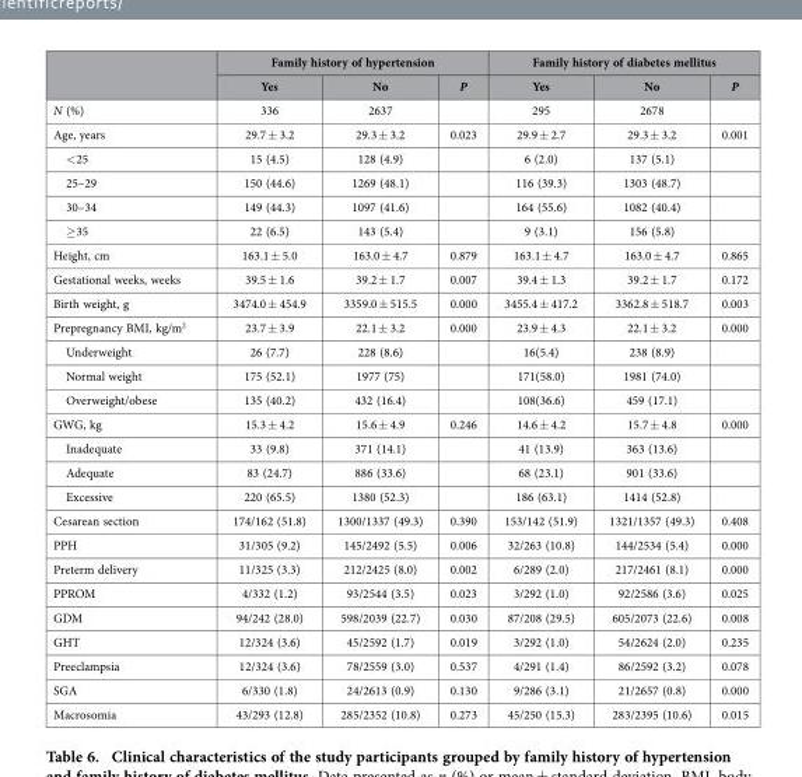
<table><thead><tr><td rowspan="2"></td><td colspan="3">Family history of hypertension</td><td colspan="3">Family history of diabetes mellitus</td></tr><tr><td>Yes</td><td>No</td><td>P</td><td>Yes</td><td>No</td><td>P</td></tr></thead><tbody><tr><td>N (%)</td><td>336</td><td>2637</td><td></td><td>295</td><td>2678</td><td></td></tr><tr><td>Age, years</td><td>29.7 ± 3.2</td><td>29.3 ± 3.2</td><td>0.023</td><td>29.9 ± 2.7</td><td>29.3 ± 3.2</td><td>0.001</td></tr><tr><td>&lt; 25</td><td>15 (4.5)</td><td>128 (4.9)</td><td></td><td>6 (2.0)</td><td>137 (5.1)</td><td></td></tr><tr><td>25–29</td><td>150 (44.6)</td><td>1269 (48.1)</td><td></td><td>116 (39.3)</td><td>1303 (48.7)</td><td></td></tr><tr><td>30–34</td><td>149 (44.3)</td><td>1097 (41.6)</td><td></td><td>164 (55.6)</td><td>1082 (40.4)</td><td></td></tr><tr><td>≥ 35</td><td>22 (6.5)</td><td>143 (5.4)</td><td></td><td>9 (3.1)</td><td>156 (5.8)</td><td></td></tr><tr><td>Height, cm</td><td>163.1 ± 5.0</td><td>163.0 ± 4.7</td><td>0.879</td><td>163.1 ± 4.7</td><td>163.0 ± 4.7</td><td>0.865</td></tr><tr><td>Gestational weeks, weeks</td><td>39.5 ± 1.6</td><td>39.2 ± 1.7</td><td>0.007</td><td>39.4 ± 1.3</td><td>39.2 ± 1.7</td><td>0.172</td></tr><tr><td>Birth weight, g</td><td>3474.0 ± 454.9</td><td>3359.0 ± 515.5</td><td>0.000</td><td>3455.4 ± 417.2</td><td>3362.8 ± 518.7</td><td>0.003</td></tr><tr><td>Prepregnancy BMI, kg/m<sup>2</sup></td><td>23.7 ± 3.9</td><td>22.1 ± 3.2</td><td>0.000</td><td>23.9 ± 4.3</td><td>22.1 ± 3.2</td><td>0.000</td></tr><tr><td>Underweight</td><td>26 (7.7)</td><td>228 (8.6)</td><td></td><td>16(5.4)</td><td>238 (8.9)</td><td></td></tr><tr><td>Normal weight</td><td>175 (52.1)</td><td>1977 (75)</td><td></td><td>171(58.0)</td><td>1981 (74.0)</td><td></td></tr><tr><td>Overweight/obese</td><td>135 (40.2)</td><td>432 (16.4)</td><td></td><td>108(36.6)</td><td>459 (17.1)</td><td></td></tr><tr><td>GWG, kg</td><td>15.3 ± 4.2</td><td>15.6 ± 4.9</td><td>0.246</td><td>14.6 ± 4.2</td><td>15.7 ± 4.8</td><td>0.000</td></tr><tr><td>Inadequate</td><td>33 (9.8)</td><td>371 (14.1)</td><td></td><td>41 (13.9)</td><td>363 (13.6)</td><td></td></tr><tr><td>Adequate</td><td>83 (24.7)</td><td>886 (33.6)</td><td></td><td>68 (23.1)</td><td>901 (33.6)</td><td></td></tr><tr><td>Excessive</td><td>220 (65.5)</td><td>1380 (52.3)</td><td></td><td>186 (63.1)</td><td>1414 (52.8)</td><td></td></tr><tr><td>Cesarean section</td><td>174/162 (51.8)</td><td>1300/1337 (49.3)</td><td>0.390</td><td>153/142 (51.9)</td><td>1321/1357 (49.3)</td><td>0.408</td></tr><tr><td>PPH</td><td>31/305 (9.2)</td><td>145/2492 (5.5)</td><td>0.006</td><td>32/263 (10.8)</td><td>144/2534 (5.4)</td><td>0.000</td></tr><tr><td>Preterm delivery</td><td>11/325 (3.3)</td><td>212/2425 (8.0)</td><td>0.002</td><td>6/289 (2.0)</td><td>217/2461 (8.1)</td><td>0.000</td></tr><tr><td>PPROM</td><td>4/332 (1.2)</td><td>93/2544 (3.5)</td><td>0.023</td><td>3/292 (1.0)</td><td>92/2586 (3.6)</td><td>0.025</td></tr><tr><td>GDM</td><td>94/242 (28.0)</td><td>598/2039 (22.7)</td><td>0.030</td><td>87/208 (29.5)</td><td>605/2073 (22.6)</td><td>0.008</td></tr><tr><td>GHT</td><td>12/324 (3.6)</td><td>45/2592 (1.7)</td><td>0.019</td><td>3/292 (1.0)</td><td>54/2624 (2.0)</td><td>0.235</td></tr><tr><td>Preeclampsia</td><td>12/324 (3.6)</td><td>78/2559 (3.0)</td><td>0.537</td><td>4/291 (1.4)</td><td>86/2592 (3.2)</td><td>0.078</td></tr><tr><td>SGA</td><td>6/330 (1.8)</td><td>24/2613 (0.9)</td><td>0.130</td><td>9/286 (3.1)</td><td>21/2657 (0.8)</td><td>0.000</td></tr><tr><td>Macrosomia</td><td>43/293 (12.8)</td><td>285/2352 (10.8)</td><td>0.273</td><td>45/250 (15.3)</td><td>283/2395 (10.6)</td><td>0.015</td></tr></tbody></table>